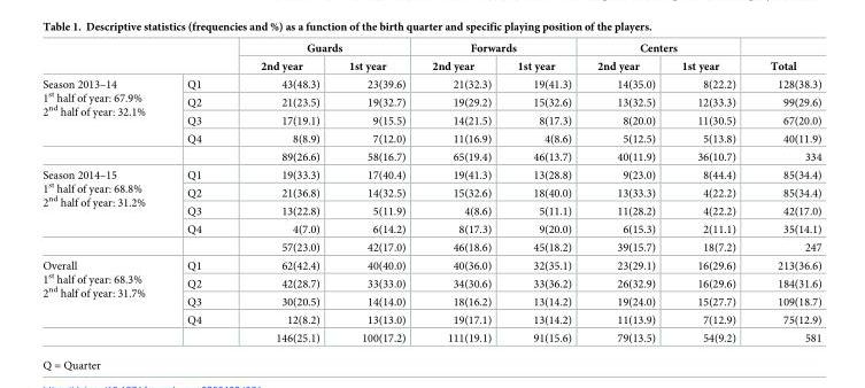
<table><thead><tr><td rowspan="2"></td><td rowspan="2"></td><td colspan="2">Guards</td><td colspan="2">Forwards</td><td colspan="2">Centers</td><td rowspan="2">Total</td></tr><tr><td>2nd year</td><td>1st year</td><td>2nd year</td><td>1st year</td><td>2nd year</td><td>1st year</td></tr></thead><tbody><tr><td rowspan="5">Season 2013–14 1<sup>st</sup> half of year: 67.9% 2<sup>nd</sup> half of year: 32.1%</td><td>Q1</td><td>43(48.3)</td><td>23(39.6)</td><td>21(32.3)</td><td>19(41.3)</td><td>14(35.0)</td><td>8(22.2)</td><td>128(38.3)</td></tr><tr><td>Q2</td><td>21(23.5)</td><td>19(32.7)</td><td>19(29.2)</td><td>15(32.6)</td><td>13(32.5)</td><td>12(33.3)</td><td>99(29.6)</td></tr><tr><td>Q3</td><td>17(19.1)</td><td>9(15.5)</td><td>14(21.5)</td><td>8(17.3)</td><td>8(20.0)</td><td>11(30.5)</td><td>67(20.0)</td></tr><tr><td>Q4</td><td>8(8.9)</td><td>7(12.0)</td><td>11(16.9)</td><td>4(8.6)</td><td>5(12.5)</td><td>5(13.8)</td><td>40(11.9)</td></tr><tr><td></td><td>89(26.6)</td><td>58(16.7)</td><td>65(19.4)</td><td>46(13.7)</td><td>40(11.9)</td><td>36(10.7)</td><td>334</td></tr><tr><td rowspan="5">Season 2014–15 1<sup>st</sup> half of year: 68.8% 2<sup>nd</sup> half of year: 31.2%</td><td>Q1</td><td>19(33.3)</td><td>17(40.4)</td><td>19(41.3)</td><td>13(28.8)</td><td>9(23.0)</td><td>8(44.4)</td><td>85(34.4)</td></tr><tr><td>Q2</td><td>21(36.8)</td><td>14(32.5)</td><td>15(32.6)</td><td>18(40.0)</td><td>13(33.3)</td><td>4(22.2)</td><td>85(34.4)</td></tr><tr><td>Q3</td><td>13(22.8)</td><td>5(11.9)</td><td>4(8.6)</td><td>5(11.1)</td><td>11(28.2)</td><td>4(22.2)</td><td>42(17.0)</td></tr><tr><td>Q4</td><td>4(7.0)</td><td>6(14.2)</td><td>8(17.3)</td><td>9(20.0)</td><td>6(15.3)</td><td>2(11.1)</td><td>35(14.1)</td></tr><tr><td></td><td>57(23.0)</td><td>42(17.0)</td><td>46(18.6)</td><td>45(18.2)</td><td>39(15.7)</td><td>18(7.2)</td><td>247</td></tr><tr><td rowspan="5">Overall 1<sup>st</sup> half of year: 68.3% 2<sup>nd</sup> half of year: 31.7%</td><td>Q1</td><td>62(42.4)</td><td>40(40.0)</td><td>40(36.0)</td><td>32(35.1)</td><td>23(29.1)</td><td>16(29.6)</td><td>213(36.6)</td></tr><tr><td>Q2</td><td>42(28.7)</td><td>33(33.0)</td><td>34(30.6)</td><td>33(36.2)</td><td>26(32.9)</td><td>16(29.6)</td><td>184(31.6)</td></tr><tr><td>Q3</td><td>30(20.5)</td><td>14(14.0)</td><td>18(16.2)</td><td>13(14.2)</td><td>19(24.0)</td><td>15(27.7)</td><td>109(18.7)</td></tr><tr><td>Q4</td><td>12(8.2)</td><td>13(13.0)</td><td>19(17.1)</td><td>13(14.2)</td><td>11(13.9)</td><td>7(12.9)</td><td>75(12.9)</td></tr><tr><td></td><td>146(25.1)</td><td>100(17.2)</td><td>111(19.1)</td><td>91(15.6)</td><td>79(13.5)</td><td>54(9.2)</td><td>581</td></tr></tbody></table>